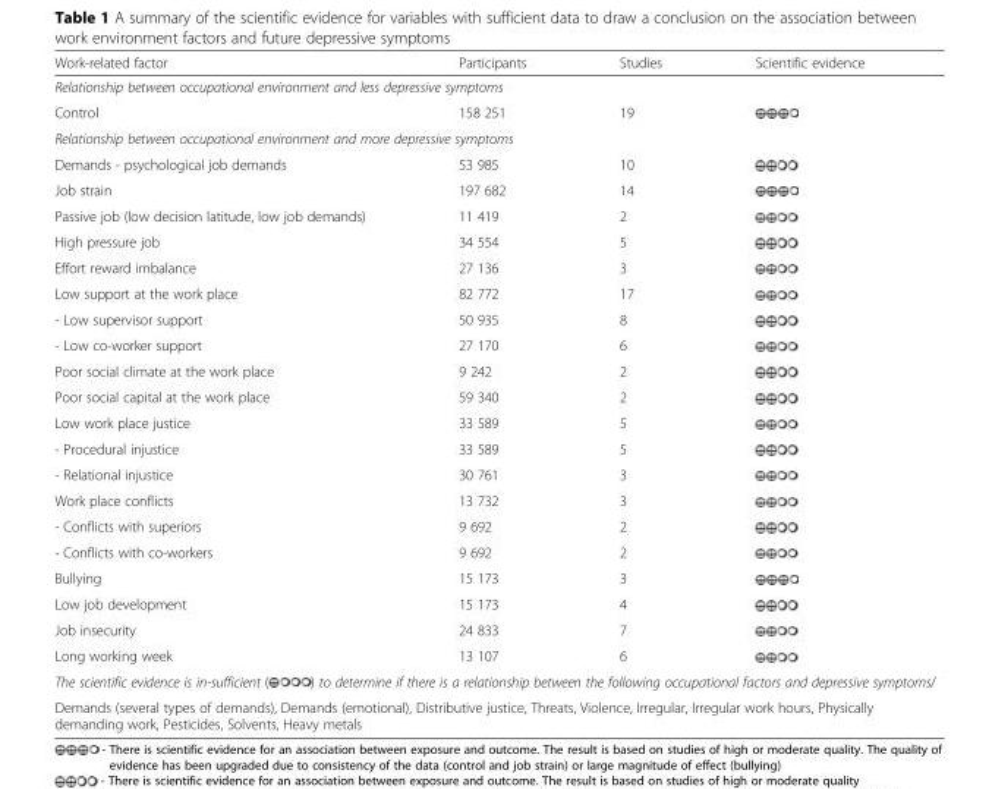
<table><thead><tr><td>Work-related factor</td><td>Participants</td><td>Studies</td><td>Scientific evidence</td></tr></thead><tbody><tr><td colspan="4">Relationship between occupational environment and less depressive symptoms</td></tr><tr><td>Control</td><td>158 251</td><td>19</td><td></td></tr><tr><td colspan="4">Relationship between occupational environment and more depressive symptoms</td></tr><tr><td>Demands - psychological job demands</td><td>53 985</td><td>10</td><td></td></tr><tr><td>Job strain</td><td>197 682</td><td>14</td><td></td></tr><tr><td>Passive job (low decision latitude, low job demands)</td><td>11 419</td><td>2</td><td></td></tr><tr><td>High pressure job</td><td>34 554</td><td>5</td><td></td></tr><tr><td>Effort reward imbalance</td><td>27 136</td><td>3</td><td></td></tr><tr><td>Low support at the work place</td><td>82 772</td><td>17</td><td></td></tr><tr><td>- Low supervisor support</td><td>50 935</td><td>8</td><td></td></tr><tr><td>- Low co-worker support</td><td>27 170</td><td>6</td><td></td></tr><tr><td>Poor social climate at the work place</td><td>9 242</td><td>2</td><td></td></tr><tr><td>Poor social capital at the work place</td><td>59 340</td><td>2</td><td></td></tr><tr><td>Low work place justice</td><td>33 589</td><td>5</td><td></td></tr><tr><td>- Procedural injustice</td><td>33 589</td><td>5</td><td></td></tr><tr><td>- Relational injustice</td><td>30 761</td><td>3</td><td></td></tr><tr><td>Work place conflicts</td><td>13 732</td><td>3</td><td></td></tr><tr><td>- Conflicts with superiors</td><td>9 692</td><td>2</td><td></td></tr><tr><td>- Conflicts with co-workers</td><td>9 692</td><td>2</td><td></td></tr><tr><td>Bullying</td><td>15 173</td><td>3</td><td></td></tr><tr><td>Low job development</td><td>15 173</td><td>4</td><td></td></tr><tr><td>Job insecurity</td><td>24 833</td><td>7</td><td></td></tr><tr><td>Long working week</td><td>13 107</td><td>6</td><td></td></tr><tr><td colspan="4">The scientific evidence is in-sufficient ( ) to determine if there is a relationship between the following occupational factors and depressive symptoms/</td></tr><tr><td colspan="4">Demands (several types of demands), Demands (emotional), Distributive justice, Threats, Violence, Irregular, Irregular work hours, Physically demanding work, Pesticides, Solvents, Heavy metals</td></tr></tbody></table>